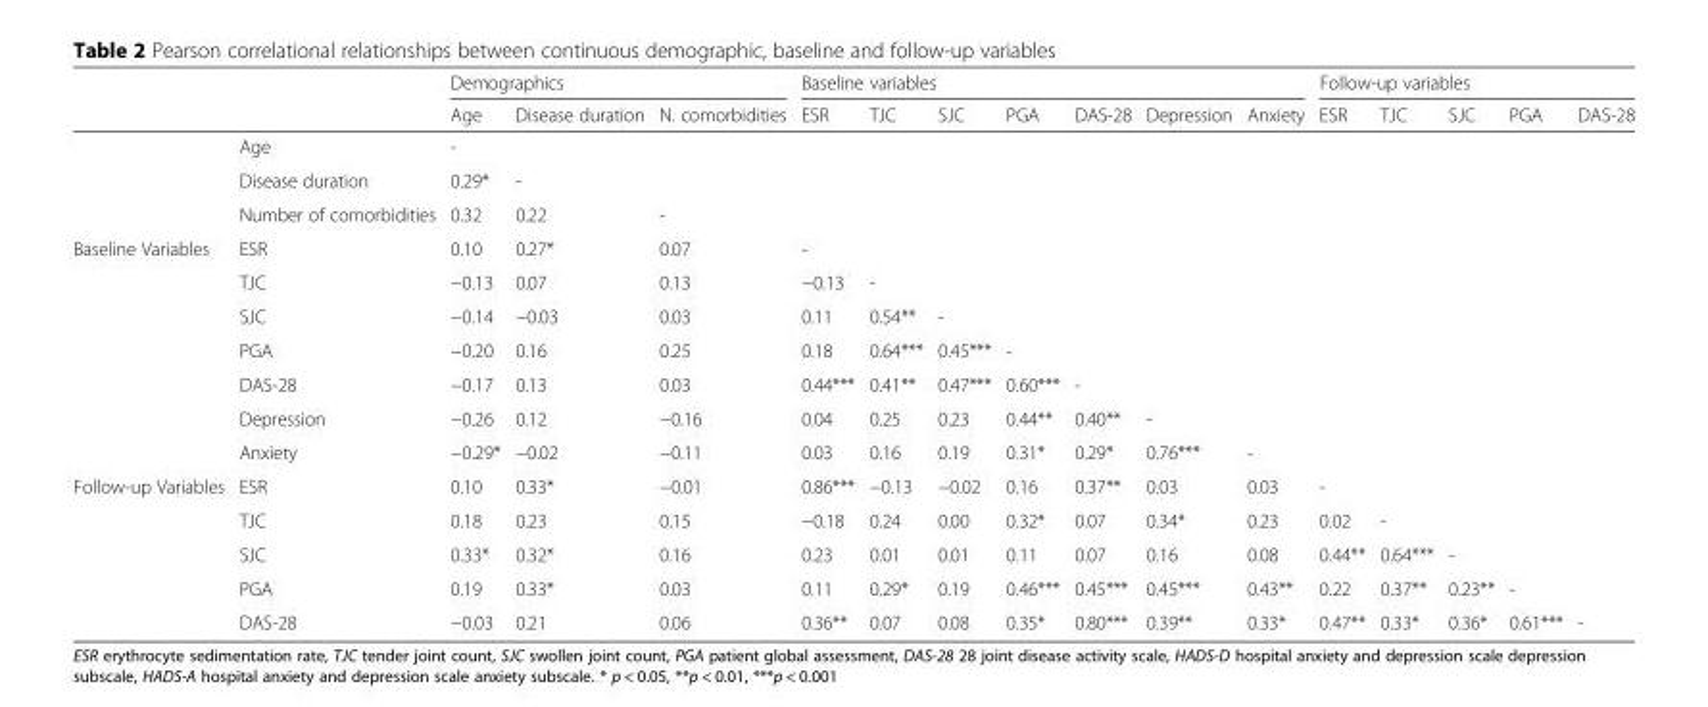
<table><thead><tr><td rowspan="2"></td><td rowspan="2"></td><td colspan="3">Demographics</td><td colspan="7">Baseline variables</td><td colspan="5">Follow-up variables</td></tr><tr><td>Age</td><td>Disease duration</td><td>N. comorbidities</td><td>ESR</td><td>TJC</td><td>SJC</td><td>PGA</td><td>DAS-28</td><td>Depression</td><td>Anxiety</td><td>ESR</td><td>TJC</td><td>SJC</td><td>PGA</td><td>DAS-28</td></tr></thead><tbody><tr><td></td><td>Age</td><td>-</td><td></td><td></td><td></td><td></td><td></td><td></td><td></td><td></td><td></td><td></td><td></td><td></td><td></td><td></td></tr><tr><td></td><td>Disease duration</td><td>0.29*</td><td>-</td><td></td><td></td><td></td><td></td><td></td><td></td><td></td><td></td><td></td><td></td><td></td><td></td><td></td></tr><tr><td></td><td>Number of comorbidities</td><td>0.32</td><td>0.22</td><td>-</td><td></td><td></td><td></td><td></td><td></td><td></td><td></td><td></td><td></td><td></td><td></td><td></td></tr><tr><td rowspan="7">Baseline Variables</td><td>ESR</td><td>0.10</td><td>0.27*</td><td>0.07</td><td>-</td><td></td><td></td><td></td><td></td><td></td><td></td><td></td><td></td><td></td><td></td><td></td></tr><tr><td>TJC</td><td>−0.13</td><td>0.07</td><td>0.13</td><td>−0.13</td><td>-</td><td></td><td></td><td></td><td></td><td></td><td></td><td></td><td></td><td></td><td></td></tr><tr><td>SJC</td><td>−0.14</td><td>−0.03</td><td>0.03</td><td>0.11</td><td>0.54**</td><td>-</td><td></td><td></td><td></td><td></td><td></td><td></td><td></td><td></td><td></td></tr><tr><td>PGA</td><td>−0.20</td><td>0.16</td><td>0.25</td><td>0.18</td><td>0.64***</td><td>0.45***</td><td>-</td><td></td><td></td><td></td><td></td><td></td><td></td><td></td><td></td></tr><tr><td>DAS-28</td><td>−0.17</td><td>0.13</td><td>0.03</td><td>0.44***</td><td>0.41**</td><td>0.47***</td><td>0.60***</td><td>-</td><td></td><td></td><td></td><td></td><td></td><td></td><td></td></tr><tr><td>Depression</td><td>−0.26</td><td>0.12</td><td>−0.16</td><td>0.04</td><td>0.25</td><td>0.23</td><td>0.44**</td><td>0.40**</td><td>-</td><td></td><td></td><td></td><td></td><td></td><td></td></tr><tr><td>Anxiety</td><td>−0.29*</td><td>−0.02</td><td>−0.11</td><td>0.03</td><td>0.16</td><td>0.19</td><td>0.31*</td><td>0.29*</td><td>0.76***</td><td>-</td><td></td><td></td><td></td><td></td><td></td></tr><tr><td rowspan="5">Follow-up Variables</td><td>ESR</td><td>0.10</td><td>0.33*</td><td>−0.01</td><td>0.86***</td><td>−0.13</td><td>−0.02</td><td>0.16</td><td>0.37**</td><td>0.03</td><td>0.03</td><td>-</td><td></td><td></td><td></td><td></td></tr><tr><td>TJC</td><td>0.18</td><td>0.23</td><td>0.15</td><td>−0.18</td><td>0.24</td><td>0.00</td><td>0.32*</td><td>0.07</td><td>0.34*</td><td>0.23</td><td>0.02</td><td>-</td><td></td><td></td><td></td></tr><tr><td>SJC</td><td>0.33*</td><td>0.32*</td><td>0.16</td><td>0.23</td><td>0.01</td><td>0.01</td><td>0.11</td><td>0.07</td><td>0.16</td><td>0.08</td><td>0.44**</td><td>0.64***</td><td>-</td><td></td><td></td></tr><tr><td>PGA</td><td>0.19</td><td>0.33*</td><td>0.03</td><td>0.11</td><td>0.29*</td><td>0.19</td><td>0.46***</td><td>0.45***</td><td>0.45***</td><td>0.43**</td><td>0.22</td><td>0.37**</td><td>0.23**</td><td>-</td><td></td></tr><tr><td>DAS-28</td><td>−0.03</td><td>0.21</td><td>0.06</td><td>0.36**</td><td>0.07</td><td>0.08</td><td>0.35*</td><td>0.80***</td><td>0.39**</td><td>0.33*</td><td>0.47**</td><td>0.33*</td><td>0.36*</td><td>0.61***</td><td>-</td></tr></tbody></table>